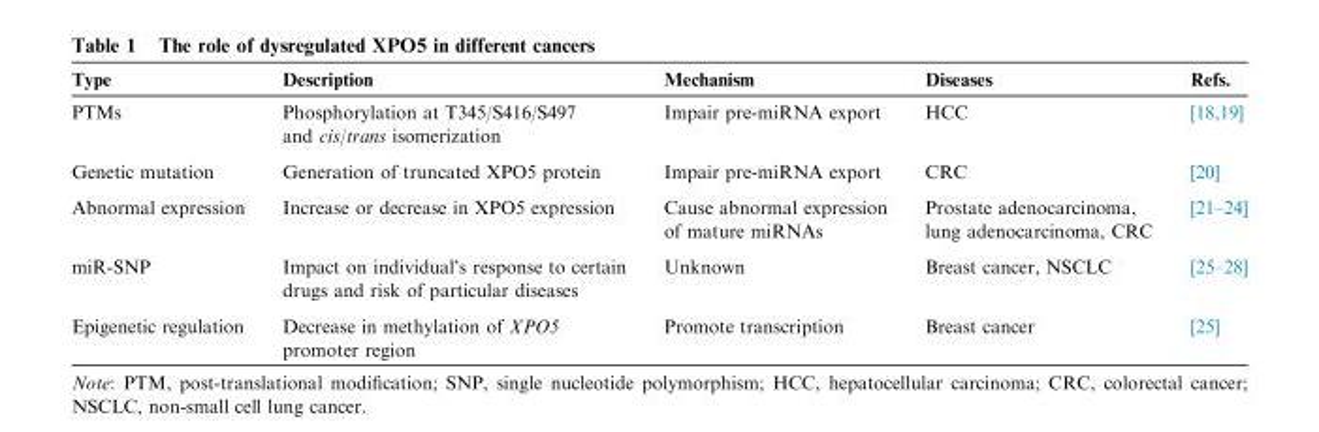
<table><thead><tr><td>Type</td><td>Description</td><td>Mechanism</td><td>Diseases</td><td>Refs.</td></tr></thead><tbody><tr><td>PTMs</td><td>Phosphorylation at T345/S416/S497 and cis/trans isomerization</td><td>Impair pre-miRNA export</td><td>HCC</td><td>[18,19]</td></tr><tr><td>Genetic mutation</td><td>Generation of truncated XPO5 protein</td><td>Impair pre-miRNA export</td><td>CRC</td><td>[20]</td></tr><tr><td>Abnormal expression</td><td>Increase or decrease in XPO5 expression</td><td>Cause abnormal expression of mature miRNAs</td><td>Prostate adenocarcinoma, lung adenocarcinoma, CRC</td><td>[21–24]</td></tr><tr><td>miR-SNP</td><td>Impact on individual’s response to certain drugs and risk of particular diseases</td><td>Unknown</td><td>Breast cancer, NSCLC</td><td>[25–28]</td></tr><tr><td>Epigenetic regulation</td><td>Decrease in methylation of XPO5 promoter region</td><td>Promote transcription</td><td>Breast cancer</td><td>[25]</td></tr></tbody></table>